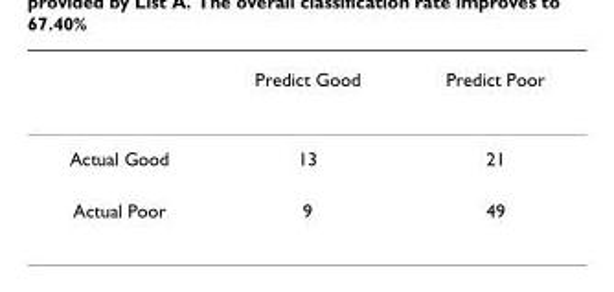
<table><thead><tr><td></td><td>Predict Good</td><td>Predict Poor</td></tr></thead><tbody><tr><td>Actual Good</td><td>13</td><td>21</td></tr><tr><td>Actual Poor</td><td>9</td><td>49</td></tr></tbody></table>